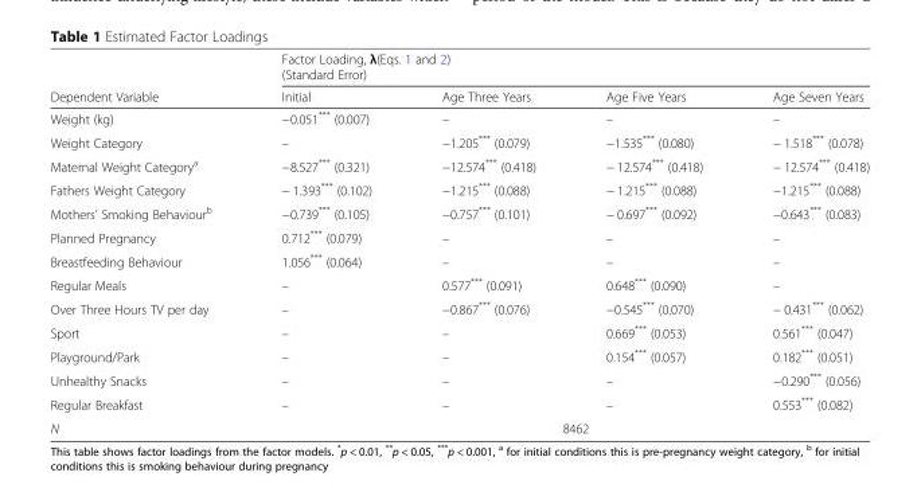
<table><thead><tr><td rowspan="2">Dependent Variable</td><td colspan="4">Factor Loading, λ(Eqs. 1 and 2) (Standard Error)</td></tr><tr><td>Initial</td><td>Age Three Years</td><td>Age Five Years</td><td>Age Seven Years</td></tr></thead><tbody><tr><td>Weight (kg)</td><td>−0.051*** (0.007)</td><td>–</td><td>–</td><td>–</td></tr><tr><td>Weight Category</td><td>–</td><td>−1.205*** (0.079)</td><td>−1.535*** (0.080)</td><td>− 1.518*** (0.078)</td></tr><tr><td>Maternal Weight Category<sup>a</sup></td><td>−8.527*** (0.321)</td><td>−12.574*** (0.418)</td><td>− 12.574*** (0.418)</td><td>− 12.574*** (0.418)</td></tr><tr><td>Fathers Weight Category</td><td>− 1.393*** (0.102)</td><td>−1.215*** (0.088)</td><td>− 1.215*** (0.088)</td><td>−1.215*** (0.088)</td></tr><tr><td>Mothers’ Smoking Behaviour<sup>b</sup></td><td>−0.739*** (0.105)</td><td>−0.757*** (0.101)</td><td>− 0.697*** (0.092)</td><td>−0.643*** (0.083)</td></tr><tr><td>Planned Pregnancy</td><td>0.712*** (0.079)</td><td>–</td><td>–</td><td>–</td></tr><tr><td>Breastfeeding Behaviour</td><td>1.056*** (0.064)</td><td>–</td><td>–</td><td>–</td></tr><tr><td>Regular Meals</td><td>–</td><td>0.577*** (0.091)</td><td>0.648*** (0.090)</td><td>–</td></tr><tr><td>Over Three Hours TV per day</td><td>–</td><td>−0.867*** (0.076)</td><td>−0.545*** (0.070)</td><td>− 0.431*** (0.062)</td></tr><tr><td>Sport</td><td>–</td><td>–</td><td>0.669*** (0.053)</td><td>0.561*** (0.047)</td></tr><tr><td>Playground/Park</td><td>–</td><td>–</td><td>0.154*** (0.057)</td><td>0.182*** (0.051)</td></tr><tr><td>Unhealthy Snacks</td><td>–</td><td>–</td><td>–</td><td>−0.290*** (0.056)</td></tr><tr><td>Regular Breakfast</td><td>–</td><td>–</td><td>–</td><td>0.553*** (0.082)</td></tr><tr><td>N</td><td colspan="4">8462</td></tr></tbody></table>